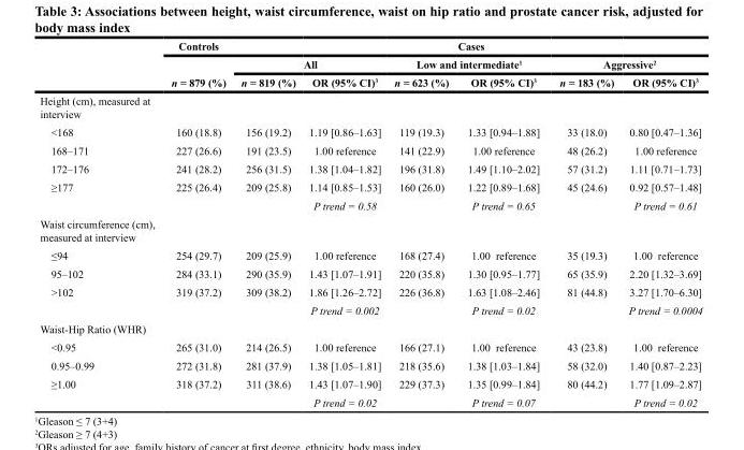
<table><thead><tr><td rowspan="3"></td><td rowspan="3">Controls n = 879 (%)</td><td colspan="6">Cases</td></tr><tr><td colspan="2">All</td><td colspan="2">Low and intermediate<sup>1</sup></td><td colspan="2">Aggressive<sup>2</sup></td></tr><tr><td>n = 819 (%)</td><td>OR (95% CI)<sup>3</sup></td><td>n = 623 (%)</td><td>OR (95% CI)<sup>3</sup></td><td>n = 183 (%)</td><td>OR (95% CI)<sup>3</sup></td></tr></thead><tbody><tr><td colspan="8">Height (cm), measured at interview</td></tr><tr><td>&lt;168</td><td>160 (18.8)</td><td>156 (19.2)</td><td>1.19 [0.86–1.63]</td><td>119 (19.3)</td><td>1.33 [0.94–1.88]</td><td>33 (18.0)</td><td>0.80 [0.47–1.36]</td></tr><tr><td>168–171</td><td>227 (26.6)</td><td>191 (23.5)</td><td>1.00 reference</td><td>141 (22.9)</td><td>1.00 reference</td><td>48 (26.2)</td><td>1.00 reference</td></tr><tr><td>172–176</td><td>241 (28.2)</td><td>256 (31.5)</td><td>1.38 [1.04–1.82]</td><td>196 (31.8)</td><td>1.49 [1.10–2.02]</td><td>57 (31.2)</td><td>1.11 [0.71–1.73]</td></tr><tr><td rowspan="2">≥177</td><td>225 (26.4)</td><td>209 (25.8)</td><td>1.14 [0.85–1.53]</td><td>160 (26.0)</td><td>1.22 [0.89–1.68]</td><td>45 (24.6)</td><td>0.92 [0.57–1.48]</td></tr><tr><td></td><td></td><td>P trend = 0.58</td><td></td><td>P trend = 0.65</td><td></td><td>P trend = 0.61</td></tr><tr><td colspan="8">Waist circumference (cm), measured at interview</td></tr><tr><td>≤94</td><td>254 (29.7)</td><td>209 (25.9)</td><td>1.00 reference</td><td>168 (27.4)</td><td>1.00 reference</td><td>35 (19.3)</td><td>1.00 reference</td></tr><tr><td>95–102</td><td>284 (33.1)</td><td>290 (35.9)</td><td>1.43 [1.07–1.91]</td><td>220 (35.8)</td><td>1.30 [0.95–1.77]</td><td>65 (35.9)</td><td>2.20 [1.32–3.69]</td></tr><tr><td rowspan="2">&gt;102</td><td>319 (37.2)</td><td>309 (38.2)</td><td>1.86 [1.26–2.72]</td><td>226 (36.8)</td><td>1.63 [1.08–2.46]</td><td>81 (44.8)</td><td>3.27 [1.70–6.30]</td></tr><tr><td></td><td></td><td>P trend = 0.002</td><td></td><td>P trend = 0.02</td><td></td><td>P trend = 0.0004</td></tr><tr><td colspan="8">Waist-Hip Ratio (WHR)</td></tr><tr><td>&lt;0.95</td><td>265 (31.0)</td><td>214 (26.5)</td><td>1.00 reference</td><td>166 (27.1)</td><td>1.00 reference</td><td>43 (23.8)</td><td>1.00 reference</td></tr><tr><td>0.95–0.99</td><td>272 (31.8)</td><td>281 (37.9)</td><td>1.38 [1.05–1.81]</td><td>218 (35.6)</td><td>1.38 [1.03–1.84]</td><td>58 (32.0)</td><td>1.40 [0.87–2.23]</td></tr><tr><td rowspan="2">≥1.00</td><td>318 (37.2)</td><td>311 (38.6)</td><td>1.43 [1.07–1.90]</td><td>229 (37.3)</td><td>1.35 [0.99–1.84]</td><td>80 (44.2)</td><td>1.77 [1.09–2.87]</td></tr><tr><td></td><td></td><td>P trend = 0.02</td><td></td><td>P trend = 0.07</td><td></td><td>P trend = 0.02</td></tr></tbody></table>